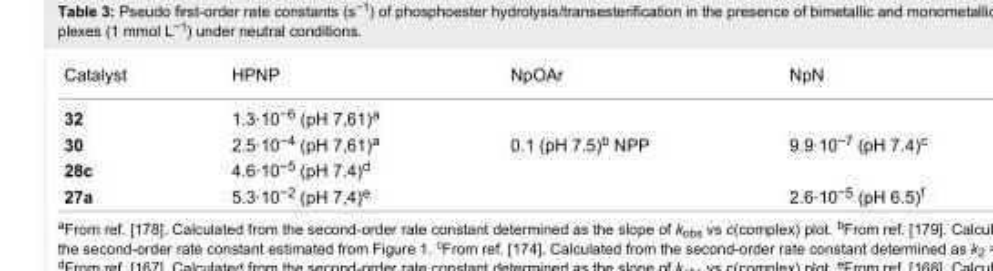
<table><tbody><tr><td>Catalyst</td><td>HPNP</td><td>NpOAr</td><td>NpN</td></tr><tr><td>32</td><td>1.3∙10<sup>−6</sup> (pH 7,61)<sup>a</sup></td><td></td><td></td></tr><tr><td>30</td><td>2.5∙10<sup>−4</sup> (pH 7,61)<sup>a</sup></td><td>0.1 (pH 7.5)<sup>b</sup> NPP</td><td>9.9∙10<sup>−7</sup> (pH 7.4)<sup>c</sup></td></tr><tr><td>28c</td><td>4.6∙10<sup>−5</sup> (pH 7.4)<sup>d</sup></td><td></td><td></td></tr><tr><td>27a</td><td>5.3∙10<sup>−2</sup> (pH 7,4)<sup>e</sup></td><td></td><td>2.6∙10<sup>−5</sup> (pH 6.5)<sup>f</sup></td></tr></tbody></table>